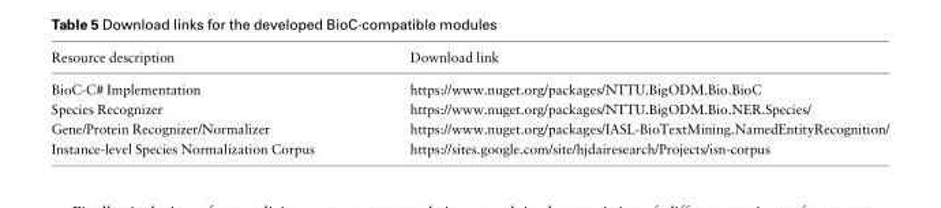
<table><thead><tr><td>Resource description</td><td>Download link</td></tr></thead><tbody><tr><td>BioC-C# Implementation</td><td>https://www.nuget.org/packages/NTTU.BigODM.Bio.BioC</td></tr><tr><td>Species Recognizer</td><td>https://www.nuget.org/packages/NTTU.BigODM.Bio.NER.Species/</td></tr><tr><td>Gene/Protein Recognizer/Normalizer</td><td>https://www.nuget.org/packages/IASL-BioTextMining.NamedEntityRecognition/</td></tr><tr><td>Instance-level Species Normalization Corpus</td><td>https://sites.google.com/site/hjdairesearch/Projects/isn-corpus</td></tr></tbody></table>